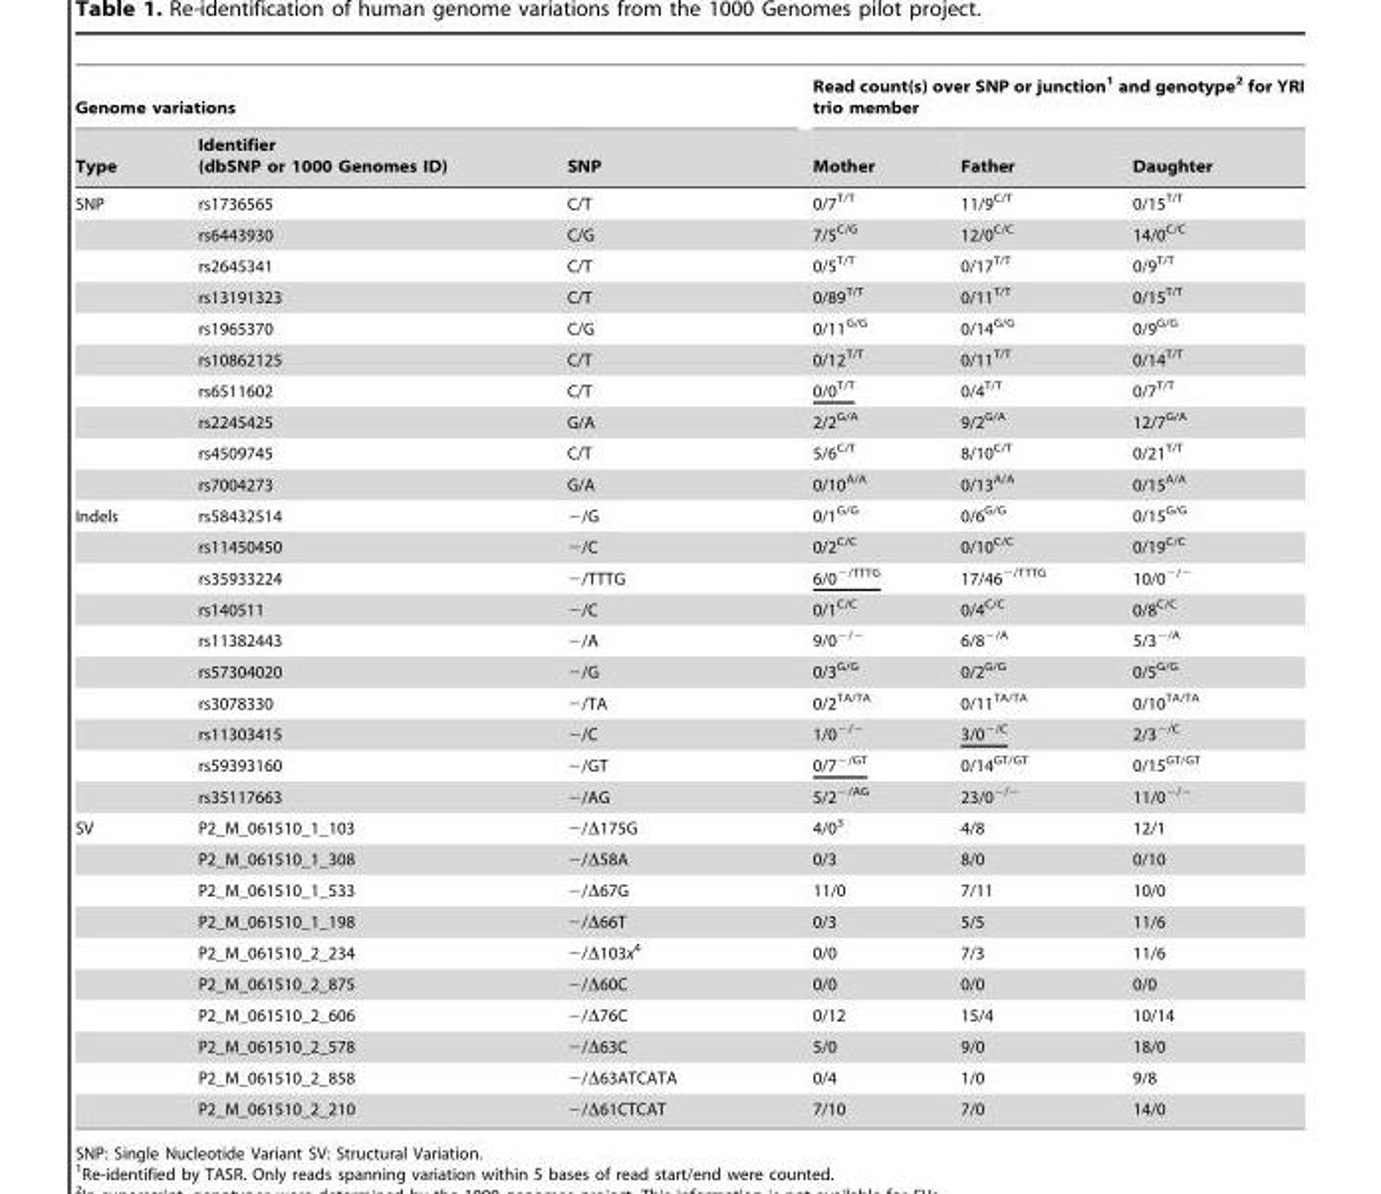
<table><thead><tr><td colspan="3">Genome variations</td><td colspan="3">Read count(s) over SNP or junction<sup>1</sup> and genotype<sup>2</sup> for YRI trio member</td></tr><tr><td>Type</td><td>Identifier (dbSNP or 1000 Genomes ID)</td><td>SNP</td><td>Mother</td><td>Father</td><td>Daughter</td></tr></thead><tbody><tr><td rowspan="10">SNP</td><td>rs1736565</td><td>C/T</td><td>0/7<sup>T/T</sup></td><td>11/9<sup>C/T</sup></td><td>0/15<sup>T/T</sup></td></tr><tr><td>rs6443930</td><td>C/G</td><td>7/5<sup>C/G</sup></td><td>12/0<sup>C/C</sup></td><td>14/0<sup>C/C</sup></td></tr><tr><td>rs2645341</td><td>C/T</td><td>0/5<sup>T/T</sup></td><td>0/17<sup>T/T</sup></td><td>0/9<sup>T/T</sup></td></tr><tr><td>rs13191323</td><td>C/T</td><td>0/89<sup>T/T</sup></td><td>0/11<sup>T/T</sup></td><td>0/15<sup>T/T</sup></td></tr><tr><td>rs1965370</td><td>C/G</td><td>0/11<sup>G/G</sup></td><td>0/14<sup>G/G</sup></td><td>0/9<sup>G/G</sup></td></tr><tr><td>rs10862125</td><td>C/T</td><td>0/12<sup>T/T</sup></td><td>0/11<sup>T/T</sup></td><td>0/14<sup>T/T</sup></td></tr><tr><td>rs6511602</td><td>C/T</td><td>0/0<sup>T/T</sup></td><td>0/4<sup>T/T</sup></td><td>0/7<sup>T/T</sup></td></tr><tr><td>rs2245425</td><td>G/A</td><td>2/2<sup>G/A</sup></td><td>9/2<sup>G/A</sup></td><td>12/7<sup>G/A</sup></td></tr><tr><td>rs4509745</td><td>C/T</td><td>5/6<sup>C/T</sup></td><td>8/10<sup>C/T</sup></td><td>0/21<sup>T/T</sup></td></tr><tr><td>rs7004273</td><td>G/A</td><td>0/10<sup>A/A</sup></td><td>0/13<sup>A/A</sup></td><td>0/15<sup>A/A</sup></td></tr><tr><td rowspan="10">Indels</td><td>rs58432514</td><td>−/G</td><td>0/1<sup>G/G</sup></td><td>0/6<sup>G/G</sup></td><td>0/15<sup>G/G</sup></td></tr><tr><td>rs11450450</td><td>−/C</td><td>0/2<sup>C/C</sup></td><td>0/10<sup>C/C</sup></td><td>0/19<sup>C/C</sup></td></tr><tr><td>rs35933224</td><td>−/TTTG</td><td>6/0<sup>−/TTTG</sup></td><td>17/46<sup>−/TTTG</sup></td><td>10/0<sup>−/−</sup></td></tr><tr><td>rs140511</td><td>−/C</td><td>0/1<sup>C/C</sup></td><td>0/4<sup>C/C</sup></td><td>0/8<sup>C/C</sup></td></tr><tr><td>rs11382443</td><td>−/A</td><td>9/0<sup>−/−</sup></td><td>6/8<sup>−/A</sup></td><td>5/3<sup>−/A</sup></td></tr><tr><td>rs57304020</td><td>−/G</td><td>0/3<sup>G/G</sup></td><td>0/2<sup>G/G</sup></td><td>0/5<sup>G/G</sup></td></tr><tr><td>rs3078330</td><td>−/TA</td><td>0/2<sup>TA/TA</sup></td><td>0/11<sup>TA/TA</sup></td><td>0/10<sup>TA/TA</sup></td></tr><tr><td>rs11303415</td><td>−/C</td><td>1/0<sup>−/−</sup></td><td>3/0<sup>−/C</sup></td><td>2/3<sup>−/C</sup></td></tr><tr><td>rs59393160</td><td>−/GT</td><td>0/7<sup>−/GT</sup></td><td>0/14<sup>GT/GT</sup></td><td>0/15<sup>GT/GT</sup></td></tr><tr><td>rs35117663</td><td>−/AG</td><td>5/2<sup>−/AG</sup></td><td>23/0<sup>−/−</sup></td><td>11/0<sup>−/−</sup></td></tr><tr><td rowspan="10">SV</td><td>P2_M_061510_1_103</td><td>−/Δ175G</td><td>4/0<sup>3</sup></td><td>4/8</td><td>12/1</td></tr><tr><td>P2_M_061510_1_308</td><td>−/Δ58A</td><td>0/3</td><td>8/0</td><td>0/10</td></tr><tr><td>P2_M_061510_1_533</td><td>−/Δ67G</td><td>11/0</td><td>7/11</td><td>10/0</td></tr><tr><td>P2_M_061510_1_198</td><td>−/Δ66T</td><td>0/3</td><td>5/5</td><td>11/6</td></tr><tr><td>P2_M_061510_2_234</td><td>−/Δ103x4</td><td>0/0</td><td>7/3</td><td>11/6</td></tr><tr><td>P2_M_061510_2_875</td><td>−/Δ60C</td><td>0/0</td><td>0/0</td><td>0/0</td></tr><tr><td>P2_M_061510_2_606</td><td>−/Δ76C</td><td>0/12</td><td>15/4</td><td>10/14</td></tr><tr><td>P2_M_061510_2_578</td><td>−/Δ63C</td><td>5/0</td><td>9/0</td><td>18/0</td></tr><tr><td>P2_M_061510_2_858</td><td>−/Δ63ATCATA</td><td>0/4</td><td>1/0</td><td>9/8</td></tr><tr><td>P2_M_061510_2_210</td><td>−/Δ61CTCAT</td><td>7/10</td><td>7/0</td><td>14/0</td></tr></tbody></table>